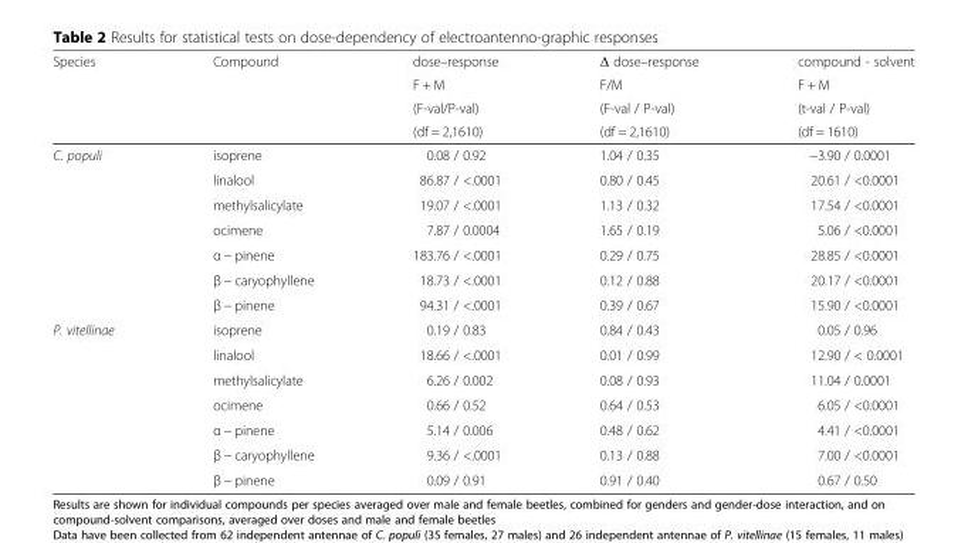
<table><thead><tr><td rowspan="4">Species</td><td rowspan="4">Compound</td><td rowspan="4">dose–response F + M (F-val/P-val) (df = 2,1610)</td><td rowspan="4">Δ dose–response F/M (F-val / P-val) (df = 2,1610)</td><td rowspan="4">compound - solvent F + M (t-val / P-val) (df = 1610)</td></tr><tr></tr><tr></tr><tr></tr></thead><tbody><tr><td rowspan="7">C. populi</td><td>isoprene</td><td>0.08 / 0.92</td><td>1.04 / 0.35</td><td>−3.90 / 0.0001</td></tr><tr><td>linalool</td><td>86.87 / &lt;.0001</td><td>0.80 / 0.45</td><td>20.61 / &lt;0.0001</td></tr><tr><td>methylsalicylate</td><td>19.07 / &lt;.0001</td><td>1.13 / 0.32</td><td>17.54 / &lt;0.0001</td></tr><tr><td>ocimene</td><td>7.87 / 0.0004</td><td>1.65 / 0.19</td><td>5.06 / &lt;0.0001</td></tr><tr><td>α − pinene</td><td>183.76 / &lt;.0001</td><td>0.29 / 0.75</td><td>28.85 / &lt;0.0001</td></tr><tr><td>β − caryophyllene</td><td>18.73 / &lt;.0001</td><td>0.12 / 0.88</td><td>20.17 / &lt;0.0001</td></tr><tr><td>β − pinene</td><td>94.31 / &lt;.0001</td><td>0.39 / 0.67</td><td>15.90 / &lt;0.0001</td></tr><tr><td rowspan="7">P. vitellinae</td><td>isoprene</td><td>0.19 / 0.83</td><td>0.84 / 0.43</td><td>0.05 / 0.96</td></tr><tr><td>linalool</td><td>18.66 / &lt;.0001</td><td>0.01 / 0.99</td><td>12.90 / &lt; 0.0001</td></tr><tr><td>methylsalicylate</td><td>6.26 / 0.002</td><td>0.08 / 0.93</td><td>11.04 / 0.0001</td></tr><tr><td>ocimene</td><td>0.66 / 0.52</td><td>0.64 / 0.53</td><td>6.05 / &lt;0.0001</td></tr><tr><td>α − pinene</td><td>5.14 / 0.006</td><td>0.48 / 0.62</td><td>4.41 / &lt;0.0001</td></tr><tr><td>β − caryophyllene</td><td>9.36 / &lt;.0001</td><td>0.13 / 0.88</td><td>7.00 / &lt;0.0001</td></tr><tr><td>β − pinene</td><td>0.09 / 0.91</td><td>0.91 / 0.40</td><td>0.67 / 0.50</td></tr></tbody></table>